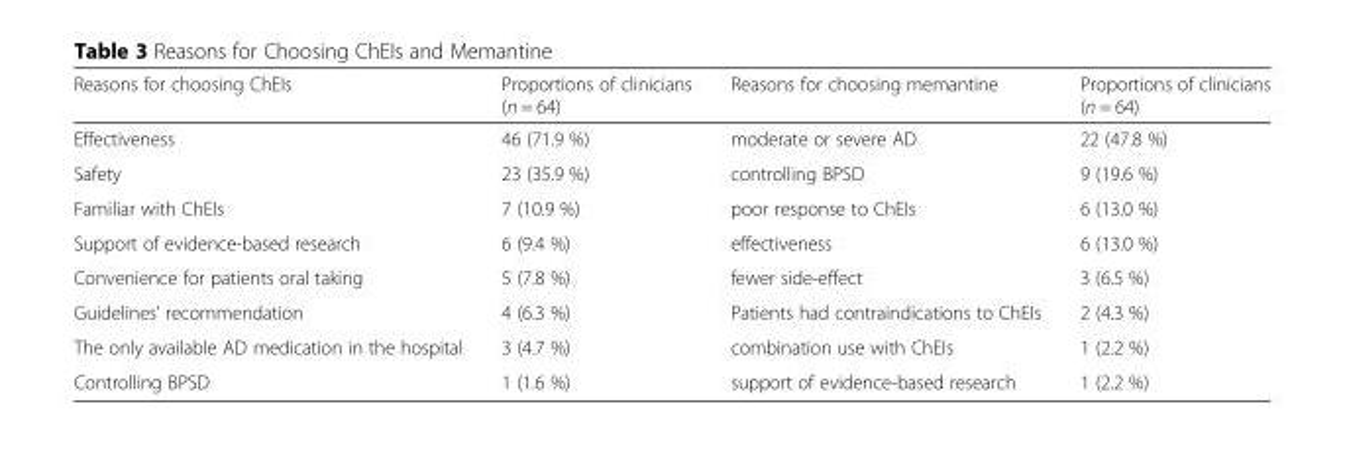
<table><thead><tr><td>Reasons for choosing ChEIs</td><td>Proportions of clinicians (n = 64)</td><td>Reasons for choosing memantine</td><td>Proportions of clinicians (n = 64)</td></tr></thead><tbody><tr><td>Effectiveness</td><td>46 (71.9 %)</td><td>moderate or severe AD</td><td>22 (47.8 %)</td></tr><tr><td>Safety</td><td>23 (35.9 %)</td><td>controlling BPSD</td><td>9 (19.6 %)</td></tr><tr><td>Familiar with ChEIs</td><td>7 (10.9 %)</td><td>poor response to ChEIs</td><td>6 (13.0 %)</td></tr><tr><td>Support of evidence-based research</td><td>6 (9.4 %)</td><td>effectiveness</td><td>6 (13.0 %)</td></tr><tr><td>Convenience for patients oral taking</td><td>5 (7.8 %)</td><td>fewer side-effect</td><td>3 (6.5 %)</td></tr><tr><td>Guidelines’ recommendation</td><td>4 (6.3 %)</td><td>Patients had contraindications to ChEIs</td><td>2 (4.3 %)</td></tr><tr><td>The only available AD medication in the hospital</td><td>3 (4.7 %)</td><td>combination use with ChEIs</td><td>1 (2.2 %)</td></tr><tr><td>Controlling BPSD</td><td>1 (1.6 %)</td><td>support of evidence-based research</td><td>1 (2.2 %)</td></tr></tbody></table>